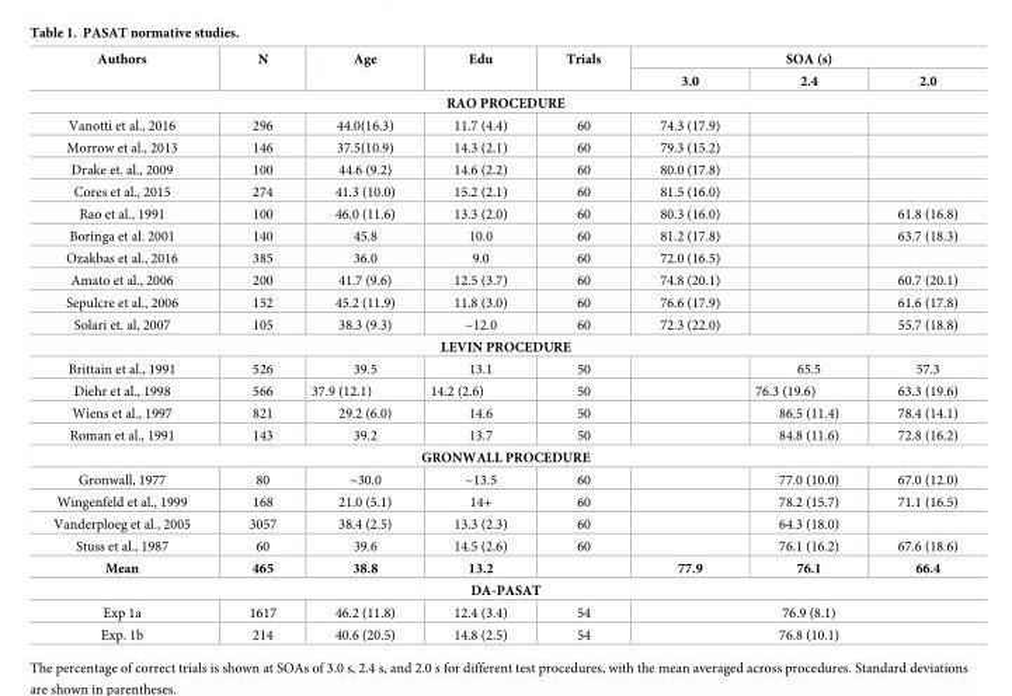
<table><thead><tr><td rowspan="2">Authors</td><td rowspan="2">N</td><td rowspan="2">Age</td><td rowspan="2">Edu</td><td rowspan="2">Trials</td><td colspan="3">SOA (s)</td></tr><tr><td>3.0</td><td>2.4</td><td>2.0</td></tr></thead><tbody><tr><td colspan="8">RAO PROCEDURE</td></tr><tr><td>Vanotti et al., 2016</td><td>296</td><td>44.0(16.3)</td><td>11.7 (4.4)</td><td>60</td><td>74.3 (17.9)</td><td></td><td></td></tr><tr><td>Morrow et al., 2013</td><td>146</td><td>37.5(10.9)</td><td>14.3 (2.1)</td><td>60</td><td>79.3 (15.2)</td><td></td><td></td></tr><tr><td>Drake et. al., 2009</td><td>100</td><td>44.6 (9.2)</td><td>14.6 (2.2)</td><td>60</td><td>80.0 (17.8)</td><td></td><td></td></tr><tr><td>Cores et al., 2015</td><td>274</td><td>41.3 (10.0)</td><td>15.2 (2.1)</td><td>60</td><td>81.5 (16.0)</td><td></td><td></td></tr><tr><td>Rao et al., 1991</td><td>100</td><td>46.0 (11.6)</td><td>13.3 (2.0)</td><td>60</td><td>80.3 (16.0)</td><td></td><td>61.8 (16.8)</td></tr><tr><td>Boringa et al. 2001</td><td>140</td><td>45.8</td><td>10.0</td><td>60</td><td>81.2 (17.8)</td><td></td><td>63.7 (18.3)</td></tr><tr><td>Ozakbas et al., 2016</td><td>385</td><td>36.0</td><td>9.0</td><td>60</td><td>72.0 (16.5)</td><td></td><td></td></tr><tr><td>Amato et al., 2006</td><td>200</td><td>41.7 (9.6)</td><td>12.5 (3.7)</td><td>60</td><td>74.8 (20.1)</td><td></td><td>60.7 (20.1)</td></tr><tr><td>Sepulcre et al., 2006</td><td>152</td><td>45.2 (11.9)</td><td>11.8 (3.0)</td><td>60</td><td>76.6 (17.9)</td><td></td><td>61.6 (17.8)</td></tr><tr><td>Solari et. al, 2007</td><td>105</td><td>38.3 (9.3)</td><td>~12.0</td><td>60</td><td>72.3 (22.0)</td><td></td><td>55.7 (18.8)</td></tr><tr><td colspan="8">LEVIN PROCEDURE</td></tr><tr><td>Brittain et al., 1991</td><td>526</td><td>39.5</td><td>13.1</td><td>50</td><td></td><td>65.5</td><td>57.3</td></tr><tr><td>Diehr et al., 1998</td><td>566</td><td>37.9 (12.1)</td><td>14.2 (2.6)</td><td>50</td><td></td><td>76.3 (19.6)</td><td>63.3 (19.6)</td></tr><tr><td>Wiens et al., 1997</td><td>821</td><td>29.2 (6.0)</td><td>14.6</td><td>50</td><td></td><td>86.5 (11.4)</td><td>78.4 (14.1)</td></tr><tr><td>Roman et al., 1991</td><td>143</td><td>39.2</td><td>13.7</td><td>50</td><td></td><td>84.8 (11.6)</td><td>72.8 (16.2)</td></tr><tr><td colspan="8">GRONWALL PROCEDURE</td></tr><tr><td>Gronwall, 1977</td><td>80</td><td>~30.0</td><td>~13.5</td><td>60</td><td></td><td>77.0 (10.0)</td><td>67.0 (12.0)</td></tr><tr><td>Wingenfeld et al., 1999</td><td>168</td><td>21.0 (5.1)</td><td>14+</td><td>60</td><td></td><td>78.2 (15.7)</td><td>71.1 (16.5)</td></tr><tr><td>Vanderploeg et al., 2005</td><td>3057</td><td>38.4 (2.5)</td><td>13.3 (2.3)</td><td>60</td><td></td><td>64.3 (18.0)</td><td></td></tr><tr><td>Stuss et al., 1987</td><td>60</td><td>39.6</td><td>14.5 (2.6)</td><td>60</td><td></td><td>76.1 (16.2)</td><td>67.6 (18.6)</td></tr><tr><td>Mean</td><td>465</td><td>38.8</td><td>13.2</td><td></td><td>77.9</td><td>76.1</td><td>66.4</td></tr><tr><td colspan="8">DA-PASAT</td></tr><tr><td>Exp 1a</td><td>1617</td><td>46.2 (11.8)</td><td>12.4 (3.4)</td><td>54</td><td colspan="3">76.9 (8.1)</td></tr><tr><td>Exp. 1b</td><td>214</td><td>40.6 (20.5)</td><td>14.8 (2.5)</td><td>54</td><td colspan="3">76.8 (10.1)</td></tr></tbody></table>